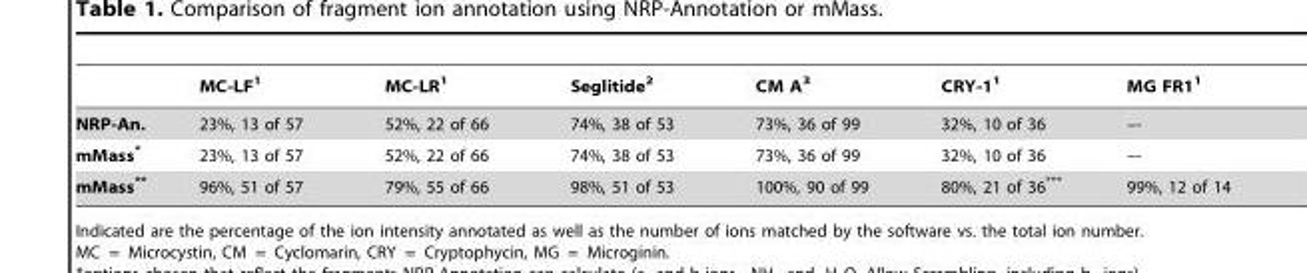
<table><thead><tr><td></td><td>MC-LF<sup>1</sup></td><td>MC-LR<sup>1</sup></td><td>Seglitide<sup>2</sup></td><td>CM A<sup>3</sup></td><td>CRY-1<sup>1</sup></td><td>MG FR1<sup>1</sup></td></tr></thead><tbody><tr><td>NRP-An.</td><td>23%, 13 of 57</td><td>52%, 22 of 66</td><td>74%, 38 of 53</td><td>73%, 36 of 99</td><td>32%, 10 of 36</td><td>–-</td></tr><tr><td>mMass*</td><td>23%, 13 of 57</td><td>52%, 22 of 66</td><td>74%, 38 of 53</td><td>73%, 36 of 99</td><td>32%, 10 of 36</td><td>–-</td></tr><tr><td>mMass**</td><td>96%, 51 of 57</td><td>79%, 55 of 66</td><td>98%, 51 of 53</td><td>100%, 90 of 99</td><td>80%, 21 of 36***</td><td>99%, 12 of 14</td></tr></tbody></table>